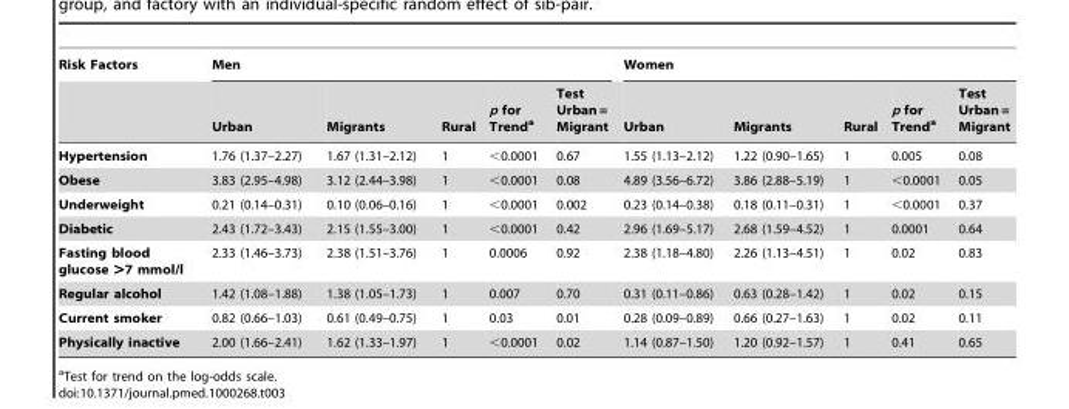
<table><thead><tr><td rowspan="2">Risk Factors</td><td colspan="5">Men</td><td colspan="5">Women</td></tr><tr><td>Urban</td><td>Migrants</td><td>Rural</td><td>p for Trend<sup>a</sup></td><td>Test Urban = Migrant</td><td>Urban</td><td>Migrants</td><td>Rural</td><td>p for Trend<sup>a</sup></td><td>Test Urban = Migrant</td></tr></thead><tbody><tr><td>Hypertension</td><td>1.76 (1.37–2.27)</td><td>1.67 (1.31–2.12)</td><td>1</td><td>&lt;0.0001</td><td>0.67</td><td>1.55 (1.13–2.12)</td><td>1.22 (0.90–1.65)</td><td>1</td><td>0.005</td><td>0.08</td></tr><tr><td>Obese</td><td>3.83 (2.95–4.98)</td><td>3.12 (2.44–3.98)</td><td>1</td><td>&lt;0.0001</td><td>0.08</td><td>4.89 (3.56–6.72)</td><td>3.86 (2.88–5.19)</td><td>1</td><td>&lt;0.0001</td><td>0.05</td></tr><tr><td>Underweight</td><td>0.21 (0.14–0.31)</td><td>0.10 (0.06–0.16)</td><td>1</td><td>&lt;0.0001</td><td>0.002</td><td>0.23 (0.14–0.38)</td><td>0.18 (0.11–0.31)</td><td>1</td><td>&lt;0.0001</td><td>0.37</td></tr><tr><td>Diabetic</td><td>2.43 (1.72–3.43)</td><td>2.15 (1.55–3.00)</td><td>1</td><td>&lt;0.0001</td><td>0.42</td><td>2.96 (1.69–5.17)</td><td>2.68 (1.59–4.52)</td><td>1</td><td>0.0001</td><td>0.64</td></tr><tr><td>Fasting blood glucose &gt;7 mmol/l</td><td>2.33 (1.46–3.73)</td><td>2.38 (1.51–3.76)</td><td>1</td><td>0.0006</td><td>0.92</td><td>2.38 (1.18–4.80)</td><td>2.26 (1.13–4.51)</td><td>1</td><td>0.02</td><td>0.83</td></tr><tr><td>Regular alcohol</td><td>1.42 (1.08–1.88)</td><td>1.38 (1.05–1.73)</td><td>1</td><td>0.007</td><td>0.70</td><td>0.31 (0.11–0.86)</td><td>0.63 (0.28–1.42)</td><td>1</td><td>0.02</td><td>0.15</td></tr><tr><td>Current smoker</td><td>0.82 (0.66–1.03)</td><td>0.61 (0.49–0.75)</td><td>1</td><td>0.03</td><td>0.01</td><td>0.28 (0.09–0.89)</td><td>0.66 (0.27–1.63)</td><td>1</td><td>0.02</td><td>0.11</td></tr><tr><td>Physically inactive</td><td>2.00 (1.66–2.41)</td><td>1.62 (1.33–1.97)</td><td>1</td><td>&lt;0.0001</td><td>0.02</td><td>1.14 (0.87–1.50)</td><td>1.20 (0.92–1.57)</td><td>1</td><td>0.41</td><td>0.65</td></tr></tbody></table>